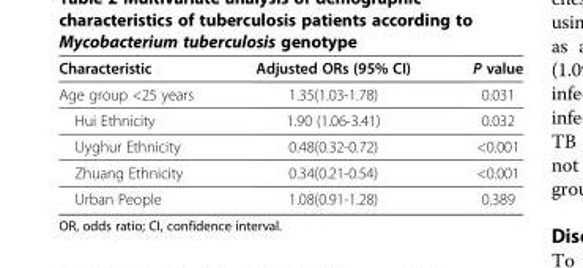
<table><thead><tr><td>Characteristic</td><td>Adjusted ORs (95% CI)</td><td>P value</td></tr></thead><tbody><tr><td>Age group &lt;25 years</td><td>1.35(1.03-1.78)</td><td>0.031</td></tr><tr><td>Hui Ethnicity</td><td>1.90 (1.06-3.41)</td><td>0.032</td></tr><tr><td>Uyghur Ethnicity</td><td>0.48(0.32-0.72)</td><td>&lt;0.001</td></tr><tr><td>Zhuang Ethnicity</td><td>0.34(0.21-0.54)</td><td>&lt;0.001</td></tr><tr><td>Urban People</td><td>1.08(0.91-1.28)</td><td>0.389</td></tr></tbody></table>